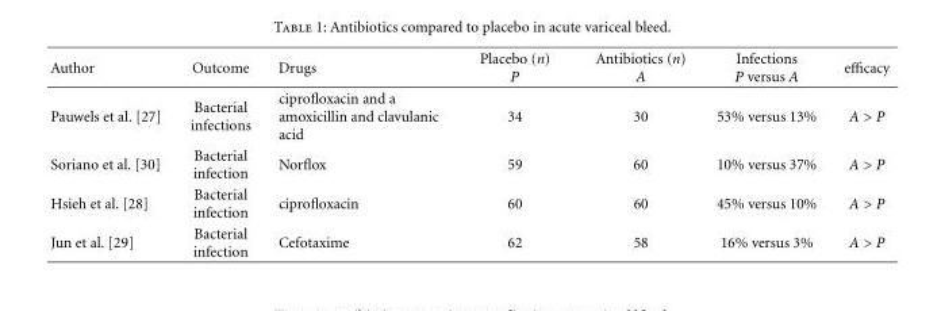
<table><thead><tr><td>Author</td><td>Outcome</td><td>Drugs</td><td>Placebo (n) P</td><td>Antibiotics (n) A</td><td>Infections P versus A</td><td>efficacy</td></tr></thead><tbody><tr><td>Pauwels et al. [27]</td><td>Bacterial infections</td><td>ciprofloxacin and a amoxicillin and clavulanic acid</td><td>34</td><td>30</td><td>53% versus 13%</td><td>A &gt; P</td></tr><tr><td>Soriano et al. [30]</td><td>Bacterial infection</td><td>Norflox</td><td>59</td><td>60</td><td>10% versus 37%</td><td>A &gt; P</td></tr><tr><td>Hsieh et al. [28]</td><td>Bacterial infection</td><td>ciprofloxacin</td><td>60</td><td>60</td><td>45% versus 10%</td><td>A &gt; P</td></tr><tr><td>Jun et al. [29]</td><td>Bacterial infection</td><td>Cefotaxime</td><td>62</td><td>58</td><td>16% versus 3%</td><td>A &gt; P</td></tr></tbody></table>